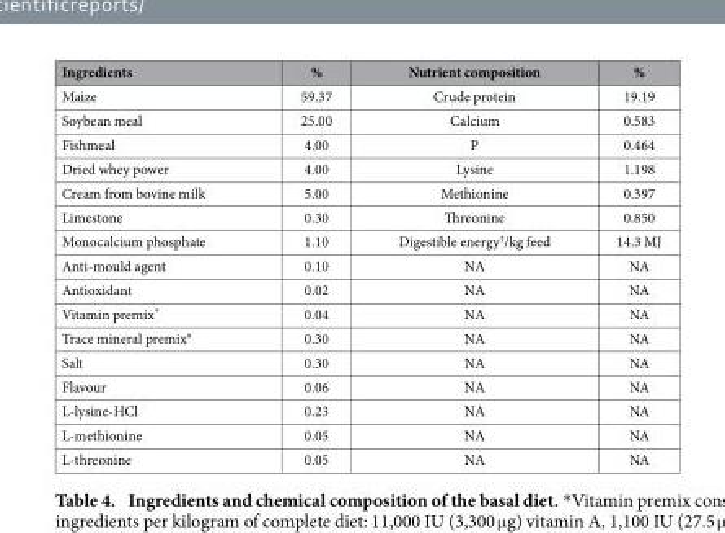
<table><thead><tr><td>Ingredients</td><td>%</td><td>Nutrient composition</td><td>%</td></tr></thead><tbody><tr><td>Maize</td><td>59.37</td><td>Crude protein</td><td>19.19</td></tr><tr><td>Soybean meal</td><td>25.00</td><td>Calcium</td><td>0.583</td></tr><tr><td>Fishmeal</td><td>4.00</td><td>P</td><td>0.464</td></tr><tr><td>Dried whey power</td><td>4.00</td><td>Lysine</td><td>1.198</td></tr><tr><td>Cream from bovine milk</td><td>5.00</td><td>Methionine</td><td>0.397</td></tr><tr><td>Limestone</td><td>0.30</td><td>Threonine</td><td>0.850</td></tr><tr><td>Monocalcium phosphate</td><td>1.10</td><td>Digestible energy†/kg feed</td><td>14.3 MJ</td></tr><tr><td>Anti-mould agent</td><td>0.10</td><td>NA</td><td>NA</td></tr><tr><td>Antioxidant</td><td>0.02</td><td>NA</td><td>NA</td></tr><tr><td>Vitamin premix*</td><td>0.04</td><td>NA</td><td>NA</td></tr><tr><td>Trace mineral premix#</td><td>0.30</td><td>NA</td><td>NA</td></tr><tr><td>Salt</td><td>0.30</td><td>NA</td><td>NA</td></tr><tr><td>Flavour</td><td>0.06</td><td>NA</td><td>NA</td></tr><tr><td>L-lysine-HCl</td><td>0.23</td><td>NA</td><td>NA</td></tr><tr><td>L-methionine</td><td>0.05</td><td>NA</td><td>NA</td></tr><tr><td>L-threonine</td><td>0.05</td><td>NA</td><td>NA</td></tr></tbody></table>